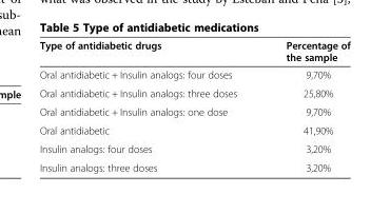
<table><thead><tr><td>Type of antidiabetic drugs</td><td>Percentage of the sample</td></tr></thead><tbody><tr><td>Oral antidiabetic + Insulin analogs: four doses</td><td>9,70%</td></tr><tr><td>Oral antidiabetic + Insulin analogs: three doses</td><td>25,80%</td></tr><tr><td>Oral antidiabetic + Insulin analogs: one dose</td><td>9,70%</td></tr><tr><td>Oral antidiabetic</td><td>41,90%</td></tr><tr><td>Insulin analogs: four doses</td><td>3,20%</td></tr><tr><td>Insulin analogs: three doses</td><td>3,20%</td></tr></tbody></table>